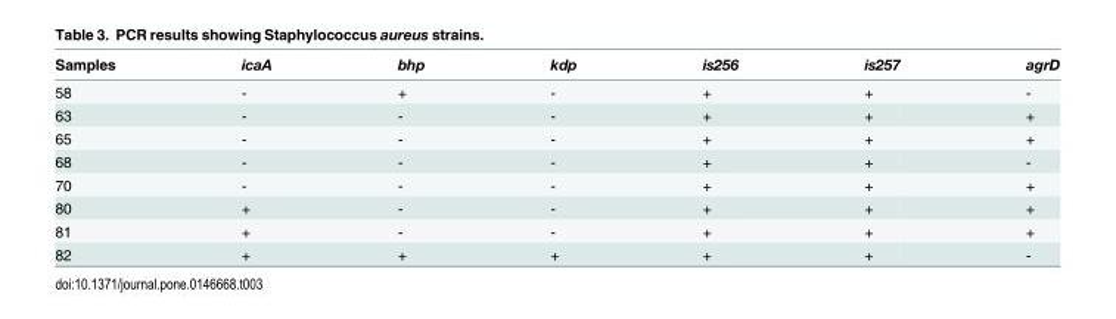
<table><thead><tr><td>Samples</td><td>icaA</td><td>bhp</td><td>kdp</td><td>is256</td><td>is257</td><td>agrD</td></tr></thead><tbody><tr><td>58</td><td>-</td><td>+</td><td>-</td><td>+</td><td>+</td><td>-</td></tr><tr><td>63</td><td>-</td><td>-</td><td>-</td><td>+</td><td>+</td><td>+</td></tr><tr><td>65</td><td>-</td><td>-</td><td>-</td><td>+</td><td>+</td><td>+</td></tr><tr><td>68</td><td>-</td><td>-</td><td>-</td><td>+</td><td>+</td><td>-</td></tr><tr><td>70</td><td>-</td><td>-</td><td>-</td><td>+</td><td>+</td><td>+</td></tr><tr><td>80</td><td>+</td><td>-</td><td>-</td><td>+</td><td>+</td><td>+</td></tr><tr><td>81</td><td>+</td><td>-</td><td>-</td><td>+</td><td>+</td><td>+</td></tr><tr><td>82</td><td>+</td><td>+</td><td>+</td><td>+</td><td>+</td><td>-</td></tr></tbody></table>